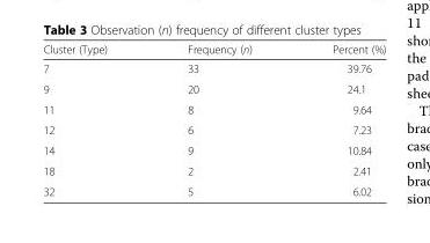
<table><thead><tr><td>Cluster (Type)</td><td>Frequency (n)</td><td>Percent (%)</td></tr></thead><tbody><tr><td>7</td><td>33</td><td>39.76</td></tr><tr><td>9</td><td>20</td><td>24.1</td></tr><tr><td>11</td><td>8</td><td>9.64</td></tr><tr><td>12</td><td>6</td><td>7.23</td></tr><tr><td>14</td><td>9</td><td>10.84</td></tr><tr><td>18</td><td>2</td><td>2.41</td></tr><tr><td>32</td><td>5</td><td>6.02</td></tr></tbody></table>